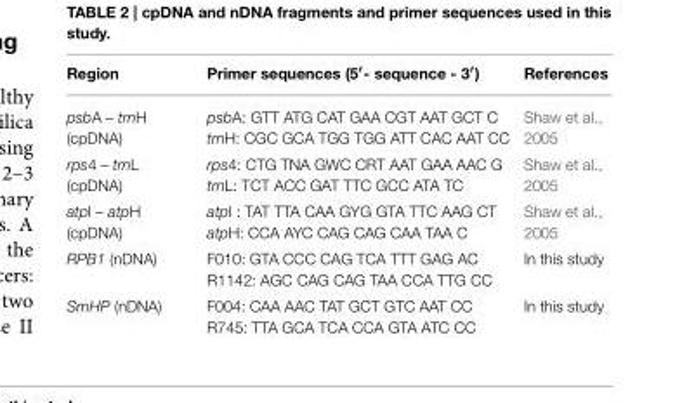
<table><thead><tr><td>Region</td><td>Primer sequences (5′- sequence - 3′)</td><td>References</td></tr></thead><tbody><tr><td>psbA – trnH (cpDNA)</td><td>psbA: GTT ATG CAT GAA CGT AAT GCT C trnH: CGC GCA TGG TGG ATT CAC AAT CC</td><td>Shaw et al., 2005</td></tr><tr><td>rps4 – trnL (cpDNA)</td><td>rps4: CTG TNA GWC CRT AAT GAA AAC G trnL: TCT ACC GAT TTC GCC ATA TC</td><td>Shaw et al., 2005</td></tr><tr><td>atpI – atpH (cpDNA)</td><td>atpI : TAT TTA CAA GYG GTA TTC AAG CT atpH: CCA AYC CAG CAG CAA TAA C</td><td>Shaw et al., 2005</td></tr><tr><td>RPB1 (nDNA)</td><td>F010: GTA CCC CAG TCA TTT GAG AC R1142: AGC CAG CAG TAA CCA TTG CC</td><td>In this study</td></tr><tr><td>SmHP (nDNA)</td><td>F004: CAA AAC TAT GCT GTC AAT CC R745: TTA GCA TCA CCA GTA ATC CC</td><td>In this study</td></tr></tbody></table>